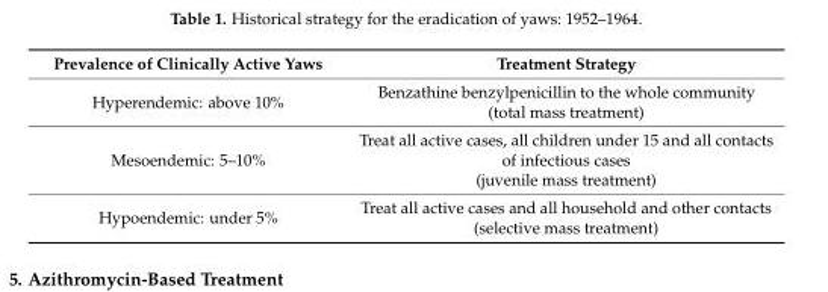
<table><thead><tr><td>Prevalence of Clinically Active Yaws</td><td>Treatment Strategy</td></tr></thead><tbody><tr><td>Hyperendemic: above 10%</td><td>Benzathine benzylpenicillin to the whole community (total mass treatment)</td></tr><tr><td>Mesoendemic: 5–10%</td><td>Treat all active cases, all children under 15 and all contacts of infectious cases (juvenile mass treatment)</td></tr><tr><td>Hypoendemic: under 5%</td><td>Treat all active cases and all household and other contacts (selective mass treatment)</td></tr></tbody></table>